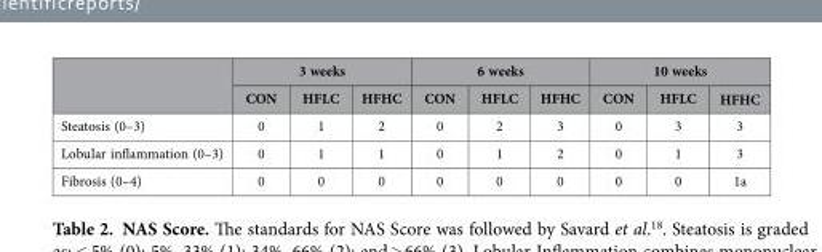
<table><thead><tr><td rowspan="2"></td><td colspan="3">3 weeks</td><td colspan="3">6 weeks</td><td colspan="3">10 weeks</td></tr><tr><td>CON</td><td>HFLC</td><td>HFHC</td><td>CON</td><td>HFLC</td><td>HFHC</td><td>CON</td><td>HFLC</td><td>HFHC</td></tr></thead><tbody><tr><td>Steatosis (0–3)</td><td>0</td><td>1</td><td>2</td><td>0</td><td>2</td><td>3</td><td>0</td><td>3</td><td>3</td></tr><tr><td>Lobular inflammation (0–3)</td><td>0</td><td>1</td><td>1</td><td>0</td><td>1</td><td>2</td><td>0</td><td>1</td><td>3</td></tr><tr><td>Fibrosis (0–4)</td><td>0</td><td>0</td><td>0</td><td>0</td><td>0</td><td>0</td><td>0</td><td>0</td><td>1a</td></tr></tbody></table>